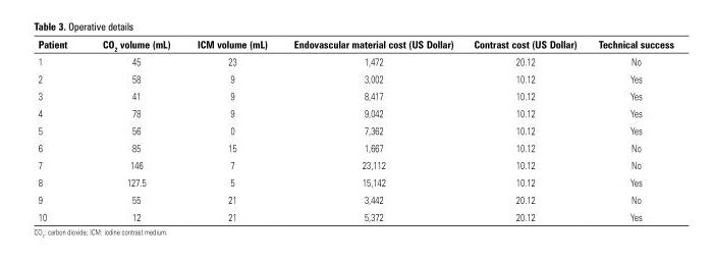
<table><thead><tr><td>Patient</td><td>CO<sub>2</sub> volume (mL)</td><td>ICM volume (mL)</td><td>Endovascular material cost (US Dollar)</td><td>Contrast cost (US Dollar)</td><td>Technical success</td></tr></thead><tbody><tr><td>1</td><td>45</td><td>23</td><td>1,472</td><td>20.12</td><td>No</td></tr><tr><td>2</td><td>58</td><td>9</td><td>3,002</td><td>10.12</td><td>Yes</td></tr><tr><td>3</td><td>41</td><td>9</td><td>8,417</td><td>10.12</td><td>Yes</td></tr><tr><td>4</td><td>78</td><td>9</td><td>9,042</td><td>10.12</td><td>Yes</td></tr><tr><td>5</td><td>56</td><td>0</td><td>7,362</td><td>10.12</td><td>Yes</td></tr><tr><td>6</td><td>85</td><td>15</td><td>1,667</td><td>10.12</td><td>No</td></tr><tr><td>7</td><td>146</td><td>7</td><td>23,112</td><td>10.12</td><td>No</td></tr><tr><td>8</td><td>127.5</td><td>5</td><td>15,142</td><td>10.12</td><td>Yes</td></tr><tr><td>9</td><td>55</td><td>21</td><td>3,442</td><td>20.12</td><td>No</td></tr><tr><td>10</td><td>12</td><td>21</td><td>5,372</td><td>20.12</td><td>Yes</td></tr></tbody></table>